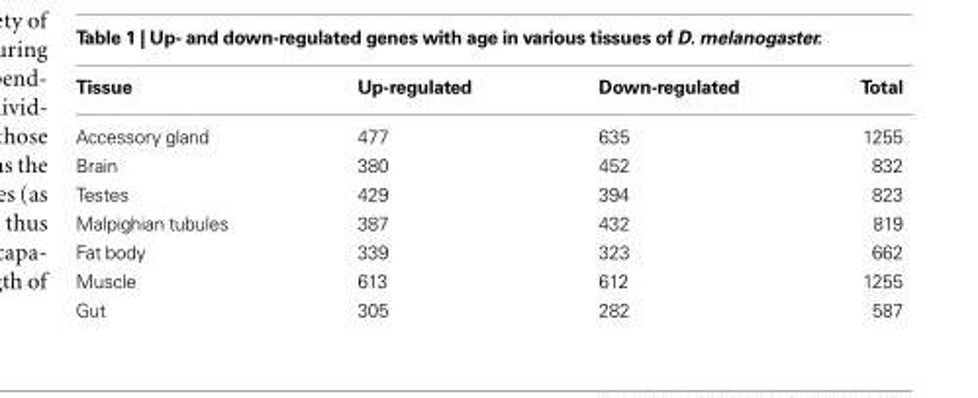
<table><thead><tr><td>Tissue</td><td>Up-regulated</td><td>Down-regulated</td><td>Total</td></tr></thead><tbody><tr><td>Accessory gland</td><td>477</td><td>635</td><td>1255</td></tr><tr><td>Brain</td><td>380</td><td>452</td><td>832</td></tr><tr><td>Testes</td><td>429</td><td>394</td><td>823</td></tr><tr><td>Malpighian tubules</td><td>387</td><td>432</td><td>819</td></tr><tr><td>Fat body</td><td>339</td><td>323</td><td>662</td></tr><tr><td>Muscle</td><td>613</td><td>612</td><td>1255</td></tr><tr><td>Gut</td><td>305</td><td>282</td><td>587</td></tr></tbody></table>